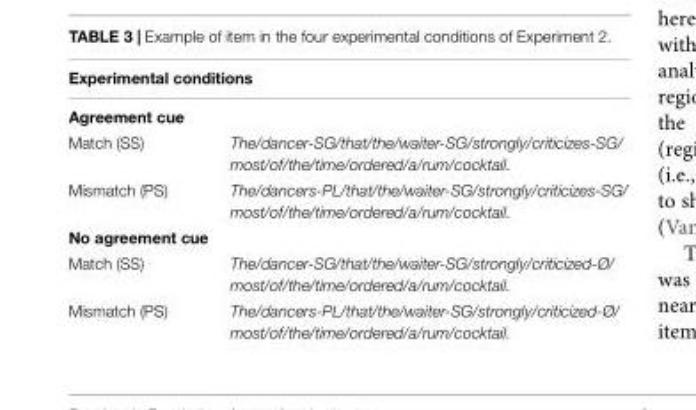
<table><thead><tr><td colspan="2">Experimental conditions</td></tr><tr><td>Agreement cue</td><td></td></tr></thead><tbody><tr><td>Match (SS)</td><td>The/dancer-SG/that/the/waiter-SG/strongly/criticizes-SG/ most/of/the/time/ordered/a/rum/cocktail.</td></tr><tr><td>Mismatch (PS)</td><td>The/dancers-PL/that/the/waiter-SG/strongly/criticizes-SG/ most/of/the/time/ordered/a/rum/cocktail.</td></tr><tr><td colspan="2">No agreement cue</td></tr><tr><td>Match (SS)</td><td>The/dancer-SG/that/the/waiter-SG/strongly/criticized-Ø/ most/of/the/time/ordered/a/rum/cocktail.</td></tr><tr><td>Mismatch (PS)</td><td>The/dancers-PL/that/the/waiter-SG/strongly/criticized-Ø/ most/of/the/time/ordered/a/rum/cocktail.</td></tr></tbody></table>